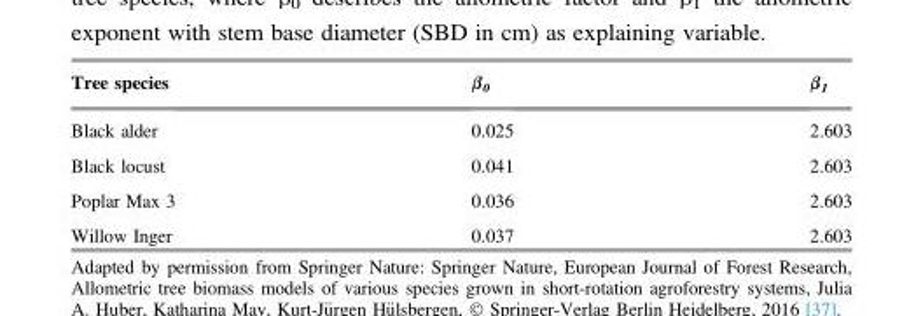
<table><thead><tr><td>Tree species</td><td>β<sub>0</sub></td><td>β<sub>1</sub></td></tr></thead><tbody><tr><td>Black alder</td><td>0.025</td><td>2.603</td></tr><tr><td>Black locust</td><td>0.041</td><td>2.603</td></tr><tr><td>Poplar Max 3</td><td>0.036</td><td>2.603</td></tr><tr><td>Willow Inger</td><td>0.037</td><td>2.603</td></tr></tbody></table>